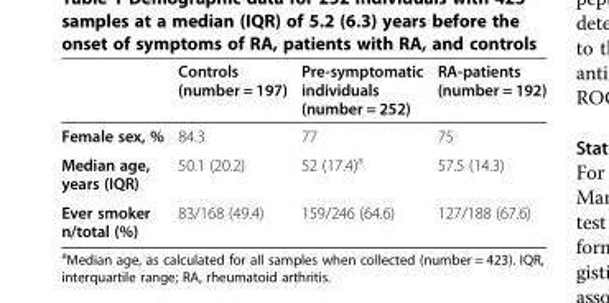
<table><thead><tr><td></td><td>Controls (number = 197)</td><td>Pre-symptomatic individuals (number = 252)</td><td>RA-patients (number = 192)</td></tr></thead><tbody><tr><td>Female sex, %</td><td>84.3</td><td>77</td><td>75</td></tr><tr><td>Median age, years (IQR)</td><td>50.1 (20.2)</td><td>52 (17.4)<sup>a</sup></td><td>57.5 (14.3)</td></tr><tr><td>Ever smoker n/total (%)</td><td>83/168 (49.4)</td><td>159/246 (64.6)</td><td>127/188 (67.6)</td></tr></tbody></table>